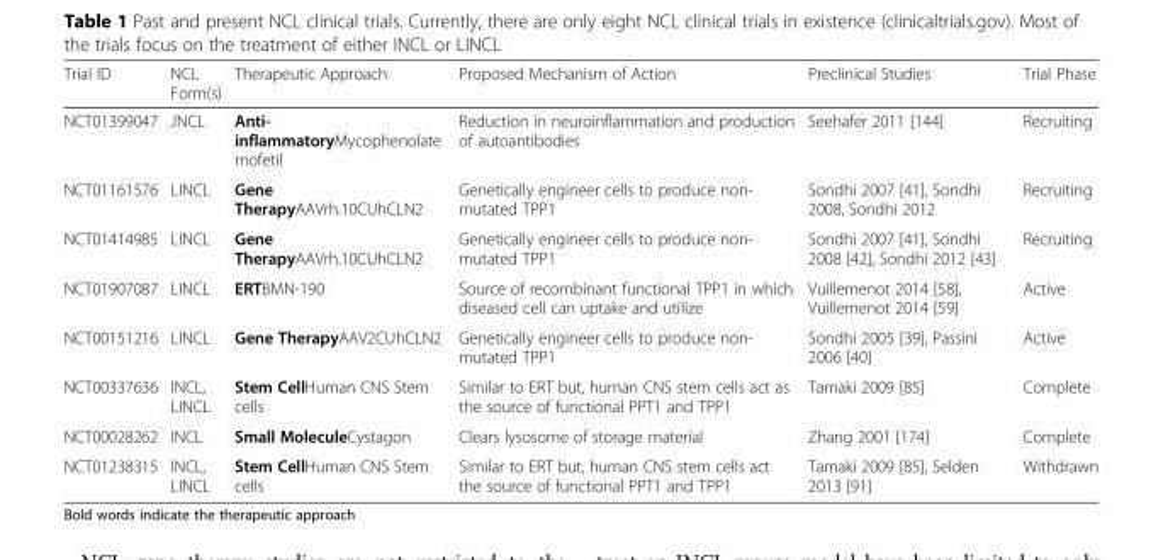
<table><thead><tr><td>Trial ID</td><td>NCL Form(s)</td><td>Therapeutic Approach</td><td>Proposed Mechanism of Action</td><td>Preclinical Studies</td><td>Trial Phase</td></tr></thead><tbody><tr><td>NCT01399047</td><td>JNCL</td><td>Anti- inflammatoryMycophenolate mofetil</td><td>Reduction in neuroinflammation and production of autoantibodies</td><td>Seehafer 2011 [144]</td><td>Recruiting</td></tr><tr><td>NCT01161576</td><td>LINCL</td><td>Gene TherapyAAVrh.10CUhCLN2</td><td>Genetically engineer cells to produce non- mutated TPP1</td><td>Sondhi 2007 [41], Sondhi 2008, Sondhi 2012</td><td>Recruiting</td></tr><tr><td>NCT01414985</td><td>LINCL</td><td>Gene TherapyAAVrh.10CUhCLN2</td><td>Genetically engineer cells to produce non- mutated TPP1</td><td>Sondhi 2007 [41], Sondhi 2008 [42], Sondhi 2012 [43]</td><td>Recruiting</td></tr><tr><td>NCT01907087</td><td>LINCL</td><td>ERTBMN-190</td><td>Source of recombinant functional TPP1 in which diseased cell can uptake and utilize</td><td>Vuillemenot 2014 [58], Vuillemenot 2014 [59]</td><td>Active</td></tr><tr><td>NCT00151216</td><td>LINCL</td><td>Gene TherapyAAV2CUhCLN2</td><td>Genetically engineer cells to produce non- mutated TPP1</td><td>Sondhi 2005 [39], Passini 2006 [40]</td><td>Active</td></tr><tr><td>NCT00337636</td><td>INCL, LINCL</td><td>Stem CellHuman CNS Stem cells</td><td>Similar to ERT but, human CNS stem cells act as the source of functional PPT1 and TPP1</td><td>Tamaki 2009 [85]</td><td>Complete</td></tr><tr><td>NCT00028262</td><td>INCL</td><td>Small MoleculeCystagon</td><td>Clears lysosome of storage material</td><td>Zhang 2001 [174]</td><td>Complete</td></tr><tr><td>NCT01238315</td><td>INCL, LINCL</td><td>Stem CellHuman CNS Stem cells</td><td>Similar to ERT but, human CNS stem cells act the source of functional PPT1 and TPP1</td><td>Tamaki 2009 [85], Selden 2013 [91]</td><td>Withdrawn</td></tr></tbody></table>